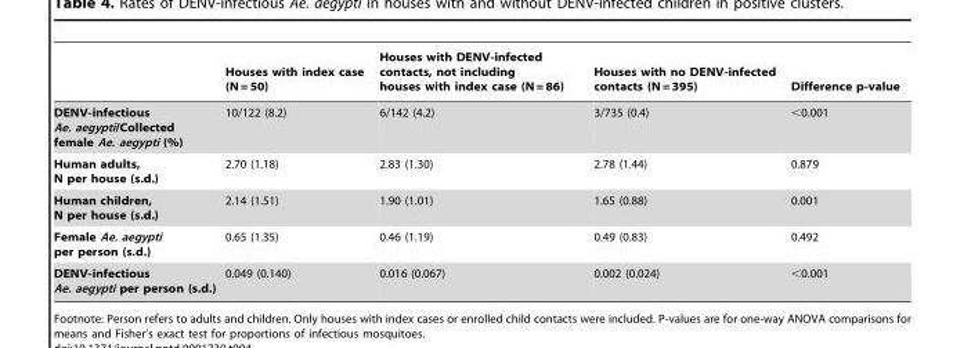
<table><thead><tr><td></td><td>Houses with index case (N = 50)</td><td>Houses with DENV-infected contacts, not including houses with index case (N = 86)</td><td>Houses with no DENV-infected contacts (N = 395)</td><td>Difference p-value</td></tr></thead><tbody><tr><td>DENV-infectious Ae. aegypti/Collected female Ae. aegypti (%)</td><td>10/122 (8.2)</td><td>6/142 (4.2)</td><td>3/735 (0.4)</td><td>&lt;0.001</td></tr><tr><td>Human adults, N per house (s.d.)</td><td>2.70 (1.18)</td><td>2.83 (1.30)</td><td>2.78 (1.44)</td><td>0.879</td></tr><tr><td>Human children, N per house (s.d.)</td><td>2.14 (1.51)</td><td>1.90 (1.01)</td><td>1.65 (0.88)</td><td>0.001</td></tr><tr><td>Female Ae. aegypti per person (s.d.)</td><td>0.65 (1.35)</td><td>0.46 (1.19)</td><td>0.49 (0.83)</td><td>0.492</td></tr><tr><td>DENV-infectious Ae. aegypti per person (s.d.)</td><td>0.049 (0.140)</td><td>0.016 (0.067)</td><td>0.002 (0.024)</td><td>&lt;0.001</td></tr></tbody></table>